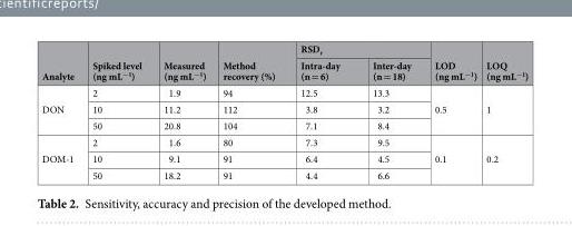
<table><thead><tr><td rowspan="2">Analyte</td><td rowspan="2">Spiked level (ng mL<sup>−1</sup>)</td><td rowspan="2">Measured (ng mL<sup>−1</sup>)</td><td rowspan="2">Method recovery (%)</td><td colspan="2">RSD<sub>r</sub></td><td rowspan="2">LOD (ng mL<sup>−1</sup>)</td><td rowspan="2">LOQ (ng mL<sup>−1</sup>)</td></tr><tr><td>Intra-day (n = 6)</td><td>Inter-day (n = 18)</td></tr></thead><tbody><tr><td rowspan="3">DON</td><td>2</td><td>1.9</td><td>94</td><td>12.5</td><td>13.3</td><td rowspan="3">0.5</td><td rowspan="3">1</td></tr><tr><td>10</td><td>11.2</td><td>112</td><td>3.8</td><td>3.2</td></tr><tr><td>50</td><td>20.8</td><td>104</td><td>7.1</td><td>8.4</td></tr><tr><td rowspan="3">DOM-1</td><td>2</td><td>1.6</td><td>80</td><td>7.3</td><td>9.5</td><td rowspan="3">0.1</td><td rowspan="3">0.2</td></tr><tr><td>10</td><td>9.1</td><td>91</td><td>6.4</td><td>4.5</td></tr><tr><td>50</td><td>18.2</td><td>91</td><td>4.4</td><td>6.6</td></tr></tbody></table>